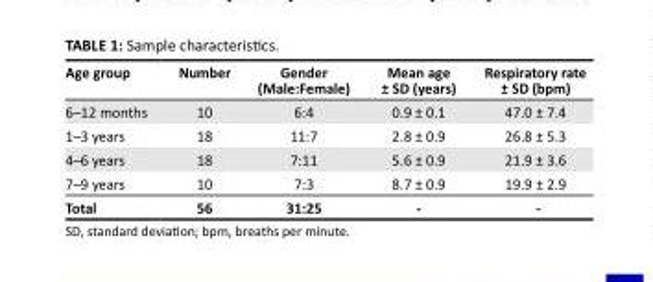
<table><thead><tr><td>Age group</td><td>Number</td><td>Gender (Male:Female)</td><td>Mean age ± SD (years)</td><td>Respiratory rate ± SD (bpm)</td></tr></thead><tbody><tr><td>6–12 months</td><td>10</td><td>6:4</td><td>0.9 ± 0.1</td><td>47.0 ± 7.4</td></tr><tr><td>1–3 years</td><td>18</td><td>11:7</td><td>2.8 ± 0.9</td><td>26.8 ± 5.3</td></tr><tr><td>4–6 years</td><td>18</td><td>7:11</td><td>5.6 ± 0.9</td><td>21.9 ± 3.6</td></tr><tr><td>7–9 years</td><td>10</td><td>7:3</td><td>8.7 ± 0.9</td><td>19.9 ± 2.9</td></tr><tr><td>Total</td><td>56</td><td>31:25</td><td>-</td><td>-</td></tr></tbody></table>